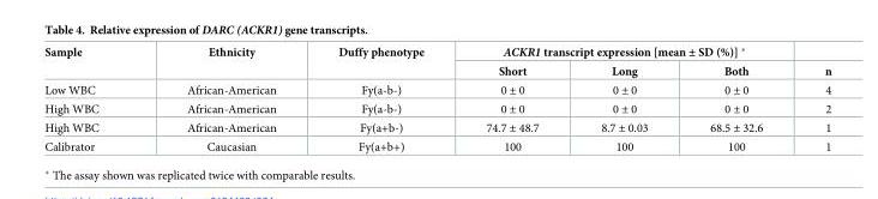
<table><thead><tr><td rowspan="2">Sample</td><td rowspan="2">Ethnicity</td><td rowspan="2">Duffy phenotype</td><td colspan="3">ACKR1 transcript expression [mean ± SD (%)] *</td><td rowspan="2">n</td></tr><tr><td>Short</td><td>Long</td><td>Both</td></tr></thead><tbody><tr><td>Low WBC</td><td>African-American</td><td>Fy(a-b-)</td><td>0 ± 0</td><td>0 ± 0</td><td>0 ± 0</td><td>4</td></tr><tr><td>High WBC</td><td>African-American</td><td>Fy(a-b-)</td><td>0 ± 0</td><td>0 ± 0</td><td>0 ± 0</td><td>2</td></tr><tr><td>High WBC</td><td>African-American</td><td>Fy(a+b-)</td><td>74.7 ± 48.7</td><td>8.7 ± 0.03</td><td>68.5 ± 32.6</td><td>1</td></tr><tr><td>Calibrator</td><td>Caucasian</td><td>Fy(a+b+)</td><td>100</td><td>100</td><td>100</td><td>1</td></tr></tbody></table>